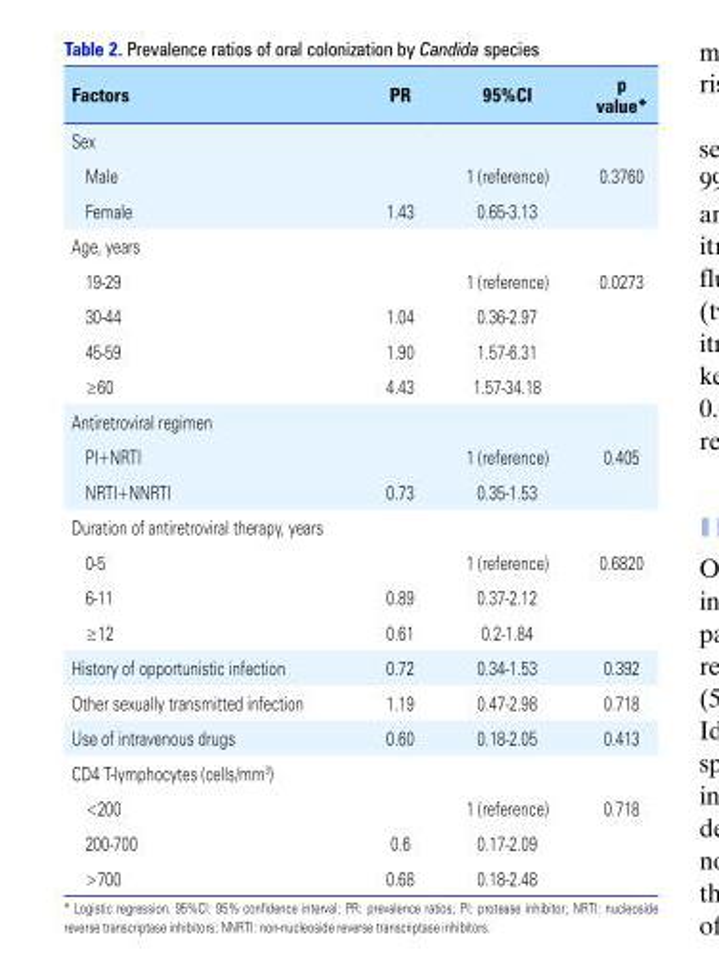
<table><thead><tr><td>Factors</td><td>PR</td><td>95%CI</td><td>p value*</td></tr></thead><tbody><tr><td colspan="4">Sex</td></tr><tr><td>Male</td><td></td><td>1 (reference)</td><td>0.3760</td></tr><tr><td>Female</td><td>1.43</td><td>0.65-3.13</td><td></td></tr><tr><td colspan="4">Age, years</td></tr><tr><td>19-29</td><td></td><td>1 (reference)</td><td>0.0273</td></tr><tr><td>30-44</td><td>1.04</td><td>0.36-2.97</td><td></td></tr><tr><td>45-59</td><td>1.90</td><td>1.57-6.31</td><td></td></tr><tr><td>≥60</td><td>4.43</td><td>1.57-34.18</td><td></td></tr><tr><td colspan="4">Antiretroviral regimen</td></tr><tr><td>PI+NRTI</td><td></td><td>1 (reference)</td><td>0.405</td></tr><tr><td>NRTI+NNRTI</td><td>0.73</td><td>0.35-1.53</td><td></td></tr><tr><td colspan="4">Duration of antiretroviral therapy, years</td></tr><tr><td>0-5</td><td></td><td>1 (reference)</td><td>0.6820</td></tr><tr><td>6-11</td><td>0.89</td><td>0.37-2.12</td><td></td></tr><tr><td>≥12</td><td>0.61</td><td>0.2-1.84</td><td></td></tr><tr><td>History of opportunistic infection</td><td>0.72</td><td>0.34-1.53</td><td>0.392</td></tr><tr><td>Other sexually transmitted infection</td><td>1.19</td><td>0.47-2.98</td><td>0.718</td></tr><tr><td>Use of intravenous drugs</td><td>0.60</td><td>0.18-2.05</td><td>0.413</td></tr><tr><td colspan="4">CD4 T-lymphocytes (cells/mm<sup>3</sup>)</td></tr><tr><td>&lt;200</td><td></td><td>1 (reference)</td><td>0.718</td></tr><tr><td>200-700</td><td>0.6</td><td>0.17-2.09</td><td></td></tr><tr><td>&gt;700</td><td>0.68</td><td>0.18-2.48</td><td></td></tr></tbody></table>